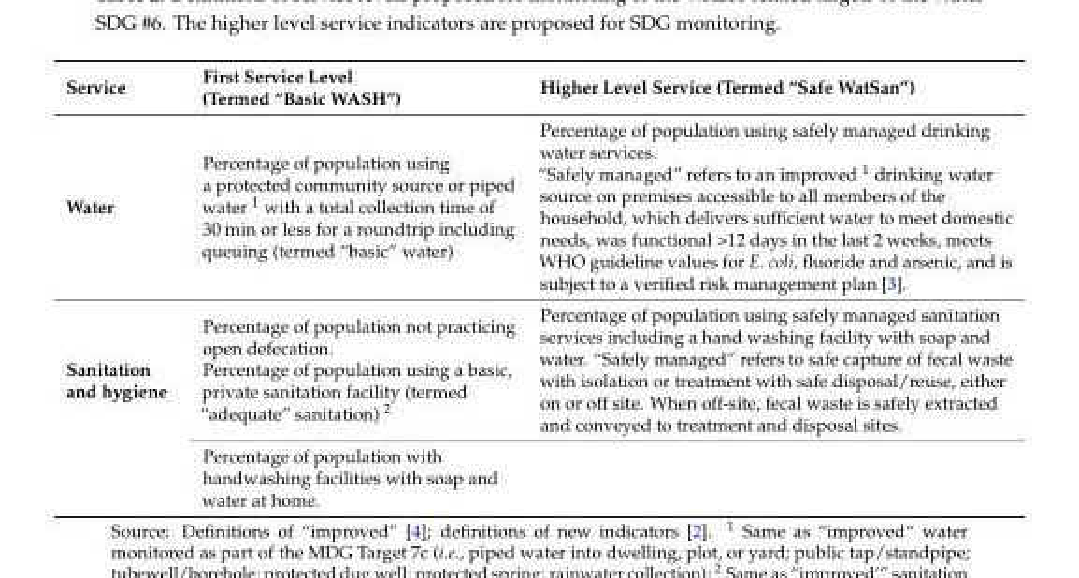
<table><thead><tr><td>Service</td><td>First Service Level (Termed “Basic WASH”)</td><td>Higher Level Service (Termed “Safe WatSan”)</td></tr></thead><tbody><tr><td>Water</td><td>Percentage of population using a protected community source or piped water <sup>1</sup> with a total collection time of 30 min or less for a roundtrip including queuing (termed “basic” water)</td><td>Percentage of population using safely managed drinking water services. “Safely managed” refers to an improved <sup>1</sup> drinking water source on premises accessible to all members of the household, which delivers sufficient water to meet domestic needs, was functional &gt;12 days in the last 2 weeks, meets WHO guideline values for E. coli, fluoride and arsenic, and is subject to a verified risk management plan [3].</td></tr><tr><td rowspan="2">Sanitation and hygiene</td><td>Percentage of population not practicing open defecation. Percentage of population using a basic, private sanitation facility (termed “adequate” sanitation) <sup>2</sup></td><td>Percentage of population using safely managed sanitation services including a hand washing facility with soap and water. “Safely managed” refers to safe capture of fecal waste with isolation or treatment with safe disposal/reuse, either on or off site. When off-site, fecal waste is safely extracted and conveyed to treatment and disposal sites.</td></tr><tr><td>Percentage of population with handwashing facilities with soap and water at home.</td><td></td></tr></tbody></table>